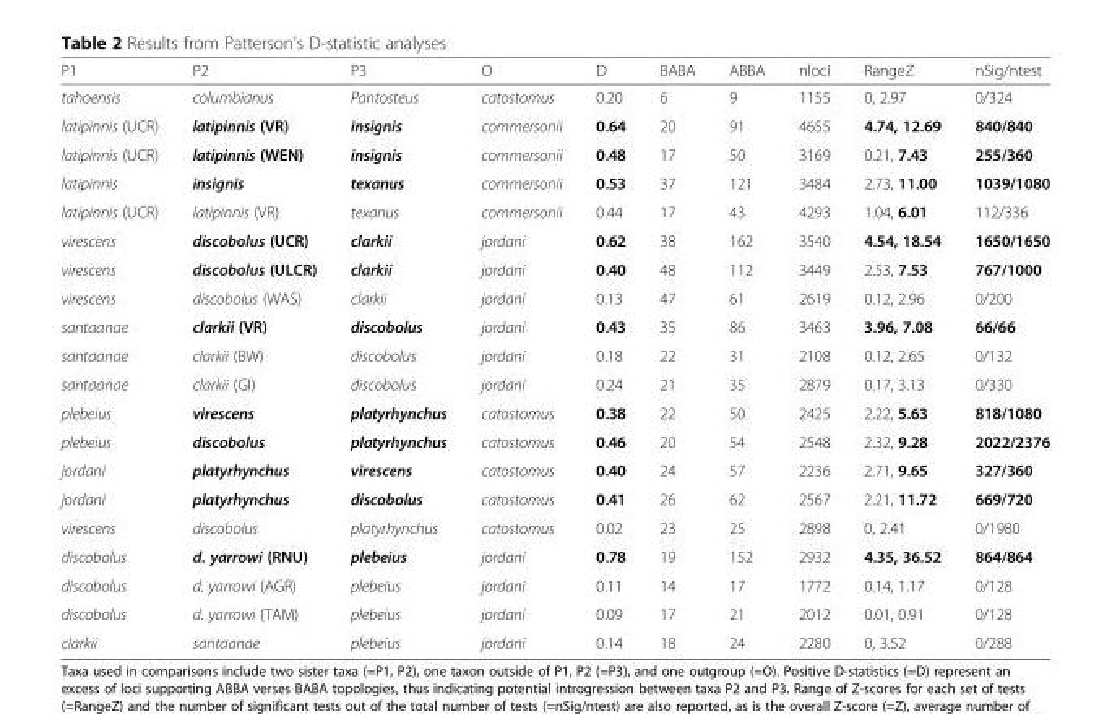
<table><thead><tr><td>P1</td><td>P2</td><td>P3</td><td>O</td><td>D</td><td>BABA</td><td>ABBA</td><td>nloci</td><td>RangeZ</td><td>nSig/ntest</td></tr></thead><tbody><tr><td>tahoensis</td><td>columbianus</td><td>Pantosteus</td><td>catostomus</td><td>0.20</td><td>6</td><td>9</td><td>1155</td><td>0, 2.97</td><td>0/324</td></tr><tr><td>latipinnis (UCR)</td><td>latipinnis (VR)</td><td>insignis</td><td>commersonii</td><td>0.64</td><td>20</td><td>91</td><td>4655</td><td>4.74, 12.69</td><td>840/840</td></tr><tr><td>latipinnis (UCR)</td><td>latipinnis (WEN)</td><td>insignis</td><td>commersonii</td><td>0.48</td><td>17</td><td>50</td><td>3169</td><td>0.21, 7.43</td><td>255/360</td></tr><tr><td>latipinnis</td><td>insignis</td><td>texanus</td><td>commersonii</td><td>0.53</td><td>37</td><td>121</td><td>3484</td><td>2.73, 11.00</td><td>1039/1080</td></tr><tr><td>latipinnis (UCR)</td><td>latipinnis (VR)</td><td>texanus</td><td>commersonii</td><td>0.44</td><td>17</td><td>43</td><td>4293</td><td>1.04, 6.01</td><td>112/336</td></tr><tr><td>virescens</td><td>discobolus (UCR)</td><td>clarkii</td><td>jordani</td><td>0.62</td><td>38</td><td>162</td><td>3540</td><td>4.54, 18.54</td><td>1650/1650</td></tr><tr><td>virescens</td><td>discobolus (ULCR)</td><td>clarkii</td><td>jordani</td><td>0.40</td><td>48</td><td>112</td><td>3449</td><td>2.53, 7.53</td><td>767/1000</td></tr><tr><td>virescens</td><td>discobolus (WAS)</td><td>clarkii</td><td>jordani</td><td>0.13</td><td>47</td><td>61</td><td>2619</td><td>0.12, 2.96</td><td>0/200</td></tr><tr><td>santaanae</td><td>clarkii (VR)</td><td>discobolus</td><td>jordani</td><td>0.43</td><td>35</td><td>86</td><td>3463</td><td>3.96, 7.08</td><td>66/66</td></tr><tr><td>santaanae</td><td>clarkii (BW)</td><td>discobolus</td><td>jordani</td><td>0.18</td><td>22</td><td>31</td><td>2108</td><td>0.12, 2.65</td><td>0/132</td></tr><tr><td>santaanae</td><td>clarkii (GI)</td><td>discobolus</td><td>jordani</td><td>0.24</td><td>21</td><td>35</td><td>2879</td><td>0.17, 3.13</td><td>0/330</td></tr><tr><td>plebeius</td><td>virescens</td><td>platyrhynchus</td><td>catostomus</td><td>0.38</td><td>22</td><td>50</td><td>2425</td><td>2.22, 5.63</td><td>818/1080</td></tr><tr><td>plebeius</td><td>discobolus</td><td>platyrhynchus</td><td>catostomus</td><td>0.46</td><td>20</td><td>54</td><td>2548</td><td>2.32, 9.28</td><td>2022/2376</td></tr><tr><td>jordani</td><td>platyrhynchus</td><td>virescens</td><td>catostomus</td><td>0.40</td><td>24</td><td>57</td><td>2236</td><td>2.71, 9.65</td><td>327/360</td></tr><tr><td>jordani</td><td>platyrhynchus</td><td>discobolus</td><td>catostomus</td><td>0.41</td><td>26</td><td>62</td><td>2567</td><td>2.21, 11.72</td><td>669/720</td></tr><tr><td>virescens</td><td>discobolus</td><td>platyrhynchus</td><td>catostomus</td><td>0.02</td><td>23</td><td>25</td><td>2898</td><td>0, 2.41</td><td>0/1980</td></tr><tr><td>discobolus</td><td>d. yarrowi (RNU)</td><td>plebeius</td><td>jordani</td><td>0.78</td><td>19</td><td>152</td><td>2932</td><td>4.35, 36.52</td><td>864/864</td></tr><tr><td>discobolus</td><td>d. yarrowi (AGR)</td><td>plebeius</td><td>jordani</td><td>0.11</td><td>14</td><td>17</td><td>1772</td><td>0.14, 1.17</td><td>0/128</td></tr><tr><td>discobolus</td><td>d. yarrowi (TAM)</td><td>plebeius</td><td>jordani</td><td>0.09</td><td>17</td><td>21</td><td>2012</td><td>0.01, 0.91</td><td>0/128</td></tr><tr><td>clarkii</td><td>santaanae</td><td>plebeius</td><td>jordani</td><td>0.14</td><td>18</td><td>24</td><td>2280</td><td>0, 3.52</td><td>0/288</td></tr></tbody></table>